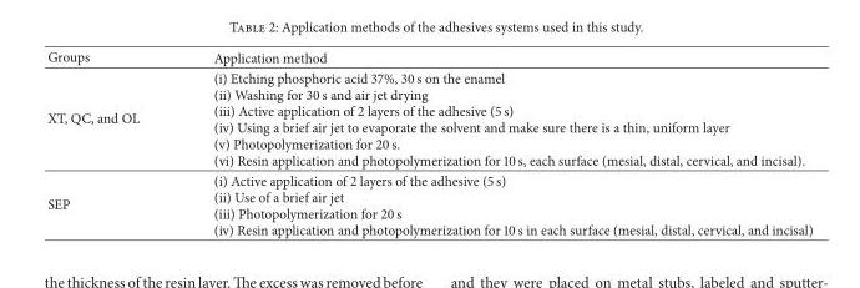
<table><thead><tr><td>Groups</td><td>Application method</td></tr></thead><tbody><tr><td>XT, QC, and OL</td><td>(i) Etching phosphoric acid 37%, 30 s on the enamel (ii) Washing for 30 s and air jet drying (iii) Active application of 2 layers of the adhesive (5 s) (iv) Using a brief air jet to evaporate the solvent and make sure there is a thin, uniform layer (v) Photopolymerization for 20 s. (vi) Resin application and photopolymerization for 10 s, each surface (mesial, distal, cervical, and incisal).</td></tr><tr><td>SEP</td><td>(i) Active application of 2 layers of the adhesive (5 s) (ii) Use of a brief air jet (iii) Photopolymerization for 20 s (iv) Resin application and photopolymerization for 10 s in each surface (mesial, distal, cervical, and incisal)</td></tr></tbody></table>